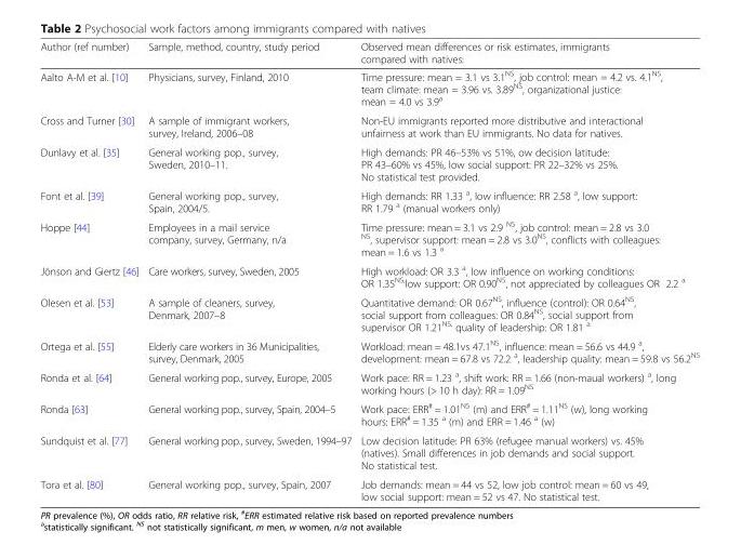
<table><thead><tr><td>Author (ref number)</td><td>Sample, method, country, study period</td><td>Observed mean differences or risk estimates, immigrants compared with natives:</td></tr></thead><tbody><tr><td>Aalto A-M et al. [10]</td><td>Physicians, survey, Finland, 2010</td><td>Time pressure: mean = 3.1 vs 3.1<sup>NS</sup>, job control: mean = 4.2 vs. 4.1<sup>NS</sup>, team climate: mean = 3.96 vs. 3.89<sup>NS</sup>, organizational justice: mean = 4.0 vs 3.9<sup>a</sup></td></tr><tr><td>Cross and Turner [30]</td><td>A sample of immigrant workers, survey, Ireland, 2006–08</td><td>Non-EU immigrants reported more distributive and interactional unfairness at work than EU immigrants. No data for natives.</td></tr><tr><td>Dunlavy et al. [35]</td><td>General working pop., survey, Sweden, 2010–11.</td><td>High demands: PR 46–53% vs 51%, ow decision latitude: PR 43–60% vs 45%, low social support: PR 22–32% vs 25%. No statistical test provided.</td></tr><tr><td>Font et al. [39]</td><td>General working pop., survey, Spain, 2004/5.</td><td>High demands: RR 1.33 <sup>a</sup>, low influence: RR 2.58 <sup>a</sup>, low support: RR 1.79 <sup>a</sup> (manual workers only)</td></tr><tr><td>Hoppe [44]</td><td>Employees in a mail service company, survey, Germany, n/a</td><td>Time pressure: mean = 3.1 vs 2.9 <sup>NS</sup>, job control: mean = 2.8 vs 3.0 <sup>NS</sup>, supervisor support: mean = 2.8 vs 3.0<sup>NS</sup>, conflicts with colleagues: mean = 1.6 vs 1.3 <sup>a</sup></td></tr><tr><td>Jönson and Giertz [46]</td><td>Care workers, survey, Sweden, 2005</td><td>High workload: OR 3.3 <sup>a</sup>, low influence on working conditions: OR 1.35<sup>NS,</sup>low support: OR 0.90<sup>NS</sup>, not appreciated by colleagues OR 2.2 <sup>a</sup></td></tr><tr><td>Olesen et al. [53]</td><td>A sample of cleaners, survey, Denmark, 2007–8</td><td>Quantitative demand: OR 0.67<sup>NS</sup>, influence (control): OR 0.64<sup>NS</sup>, social support from colleagues: OR 0.84<sup>NS</sup>, social support from supervisor OR 1.21<sup>NS,</sup> quality of leadership: OR 1.81 <sup>a</sup></td></tr><tr><td>Ortega et al. [55]</td><td>Elderly care workers in 36 Municipalities, survey, Denmark, 2005</td><td>Workload: mean = 48.1vs 47.1<sup>NS</sup>, influence: mean = 56.6 vs 44.9 <sup>a</sup>, development: mean = 67.8 vs 72.2 <sup>a</sup>, leadership quality: mean = 59.8 vs 56.2<sup>NS</sup></td></tr><tr><td>Ronda et al. [64]</td><td>General working pop., survey, Europe, 2005</td><td>Work pace: RR = 1.23 <sup>a</sup>, shift work: RR = 1.66 (non-maual workers) <sup>a</sup>, long working hours (&gt; 10 h day): RR = 1.09<sup>NS</sup></td></tr><tr><td>Ronda [63]</td><td>General working pop., survey, Spain, 2004–5</td><td>Work pace: ERR<sup>#</sup> = 1.01<sup>NS</sup> (m) and ERR<sup>#</sup> = 1.11<sup>NS</sup> (w), long working hours: ERR<sup>#</sup> = 1.35 <sup>a</sup> (m) and ERR = 1.46 <sup>a</sup> (w)</td></tr><tr><td>Sundquist et al. [77]</td><td>General working pop., survey, Sweden, 1994–97</td><td>Low decision latitude: PR 63% (refugee manual workers) vs. 45% (natives). Small differences in job demands and social support. No statistical test.</td></tr><tr><td>Tora et al. [80]</td><td>General working pop., survey, Spain, 2007</td><td>Job demands: mean = 44 vs 52, low job control: mean = 60 vs 49, low social support: mean = 52 vs 47. No statistical test.</td></tr></tbody></table>